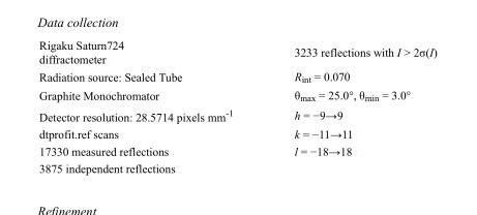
<table><tbody><tr><td>Rigaku Saturn724 diffractometer</td><td>3233 reflections with I &gt; 2σ(I)</td></tr><tr><td>Radiation source: Sealed Tube</td><td>R<sub>int</sub> = 0.070</td></tr><tr><td>Graphite Monochromator</td><td>θ<sub>max</sub> = 25.0°, θ<sub>min</sub> = 3.0°</td></tr><tr><td>Detector resolution: 28.5714 pixels mm<sup>-1</sup></td><td>h = −9→9</td></tr><tr><td>dtprofit.ref scans</td><td>k = −11→11</td></tr><tr><td>17330 measured reflections</td><td>l = −18→18</td></tr><tr><td>3875 independent reflections</td><td></td></tr></tbody></table>